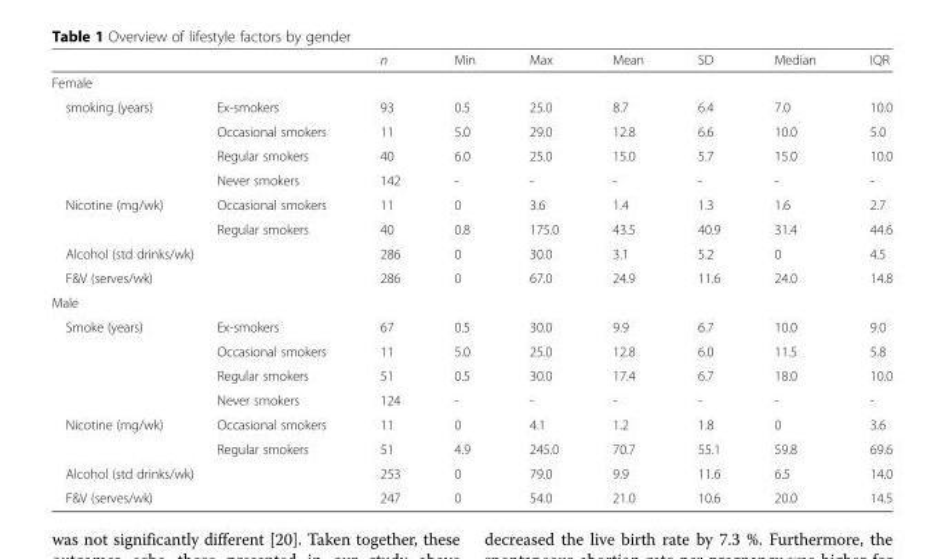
<table><thead><tr><td></td><td></td><td>n</td><td>Min</td><td>Max</td><td>Mean</td><td>SD</td><td>Median</td><td>IQR</td></tr></thead><tbody><tr><td colspan="9">Female</td></tr><tr><td rowspan="4">smoking (years)</td><td>Ex-smokers</td><td>93</td><td>0.5</td><td>25.0</td><td>8.7</td><td>6.4</td><td>7.0</td><td>10.0</td></tr><tr><td>Occasional smokers</td><td>11</td><td>5.0</td><td>29.0</td><td>12.8</td><td>6.6</td><td>10.0</td><td>5.0</td></tr><tr><td>Regular smokers</td><td>40</td><td>6.0</td><td>25.0</td><td>15.0</td><td>5.7</td><td>15.0</td><td>10.0</td></tr><tr><td>Never smokers</td><td>142</td><td>-</td><td>-</td><td>-</td><td>-</td><td>-</td><td>-</td></tr><tr><td rowspan="2">Nicotine (mg/wk)</td><td>Occasional smokers</td><td>11</td><td>0</td><td>3.6</td><td>1.4</td><td>1.3</td><td>1.6</td><td>2.7</td></tr><tr><td>Regular smokers</td><td>40</td><td>0.8</td><td>175.0</td><td>43.5</td><td>40.9</td><td>31.4</td><td>44.6</td></tr><tr><td colspan="2">Alcohol (std drinks/wk)</td><td>286</td><td>0</td><td>30.0</td><td>3.1</td><td>5.2</td><td>0</td><td>4.5</td></tr><tr><td colspan="2">F&amp;V (serves/wk)</td><td>286</td><td>0</td><td>67.0</td><td>24.9</td><td>11.6</td><td>24.0</td><td>14.8</td></tr><tr><td colspan="9">Male</td></tr><tr><td rowspan="4">Smoke (years)</td><td>Ex-smokers</td><td>67</td><td>0.5</td><td>30.0</td><td>9.9</td><td>6.7</td><td>10.0</td><td>9.0</td></tr><tr><td>Occasional smokers</td><td>11</td><td>5.0</td><td>25.0</td><td>12.8</td><td>6.0</td><td>11.5</td><td>5.8</td></tr><tr><td>Regular smokers</td><td>51</td><td>0.5</td><td>30.0</td><td>17.4</td><td>6.7</td><td>18.0</td><td>10.0</td></tr><tr><td>Never smokers</td><td>124</td><td>-</td><td>-</td><td>-</td><td>-</td><td>-</td><td>-</td></tr><tr><td rowspan="2">Nicotine (mg/wk)</td><td>Occasional smokers</td><td>11</td><td>0</td><td>4.1</td><td>1.2</td><td>1.8</td><td>0</td><td>3.6</td></tr><tr><td>Regular smokers</td><td>51</td><td>4.9</td><td>245.0</td><td>70.7</td><td>55.1</td><td>59.8</td><td>69.6</td></tr><tr><td colspan="2">Alcohol (std drinks/wk)</td><td>253</td><td>0</td><td>79.0</td><td>9.9</td><td>11.6</td><td>6.5</td><td>14.0</td></tr><tr><td colspan="2">F&amp;V (serves/wk)</td><td>247</td><td>0</td><td>54.0</td><td>21.0</td><td>10.6</td><td>20.0</td><td>14.5</td></tr></tbody></table>